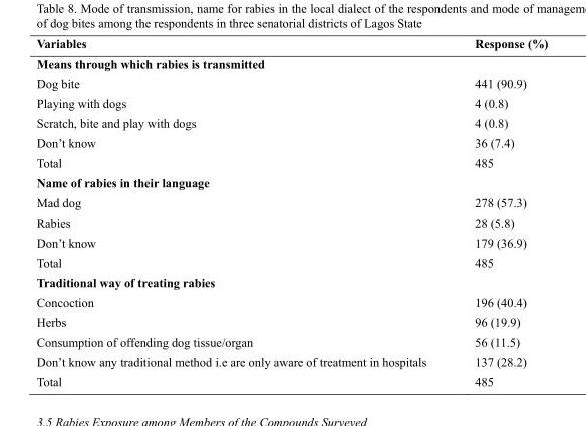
<table><thead><tr><td>Variables</td><td>Response (%)</td></tr></thead><tbody><tr><td colspan="2">Means through which rabies is transmitted</td></tr><tr><td>Dog bite</td><td>441 (90.9)</td></tr><tr><td>Playing with dogs</td><td>4 (0.8)</td></tr><tr><td>Scratch, bite and play with dogs</td><td>4 (0.8)</td></tr><tr><td>Don’t know</td><td>36 (7.4)</td></tr><tr><td>Total</td><td>485</td></tr><tr><td colspan="2">Name of rabies in their language</td></tr><tr><td>Mad dog</td><td>278 (57.3)</td></tr><tr><td>Rabies</td><td>28 (5.8)</td></tr><tr><td>Don’t know</td><td>179 (36.9)</td></tr><tr><td>Total</td><td>485</td></tr><tr><td colspan="2">Traditional way of treating rabies</td></tr><tr><td>Concoction</td><td>196 (40.4)</td></tr><tr><td>Herbs</td><td>96 (19.9)</td></tr><tr><td>Consumption of offending dog tissue/organ</td><td>56 (11.5)</td></tr><tr><td>Don’t know any traditional method i.e are only aware of treatment in hospitals</td><td>137 (28.2)</td></tr><tr><td>Total</td><td>485</td></tr></tbody></table>